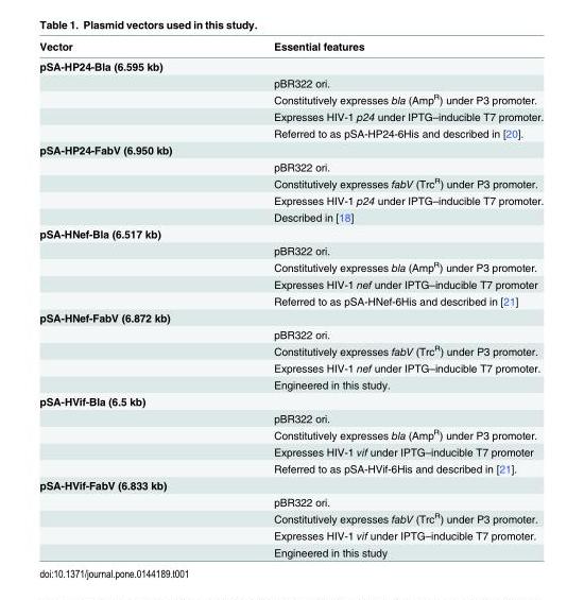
<table><thead><tr><td>Vector</td><td>Essential features</td></tr></thead><tbody><tr><td colspan="2">pSA-HP24-Bla (6.595 kb)</td></tr><tr><td></td><td>pBR322 ori.</td></tr><tr><td></td><td>Constitutively expresses bla (Amp<sup>R</sup>) under P3 promoter.</td></tr><tr><td></td><td>Expresses HIV-1 p24 under IPTG–inducible T7 promoter.</td></tr><tr><td></td><td>Referred to as pSA-HP24-6His and described in [20].</td></tr><tr><td colspan="2">pSA-HP24-FabV (6.950 kb)</td></tr><tr><td></td><td>pBR322 ori.</td></tr><tr><td></td><td>Constitutively expresses fabV (Trc<sup>R</sup>) under P3 promoter.</td></tr><tr><td></td><td>Expresses HIV-1 p24 under IPTG–inducible T7 promoter.</td></tr><tr><td></td><td>Described in [18]</td></tr><tr><td colspan="2">pSA-HNef-Bla (6.517 kb)</td></tr><tr><td></td><td>pBR322 ori.</td></tr><tr><td></td><td>Constitutively expresses bla (Amp<sup>R</sup>) under P3 promoter.</td></tr><tr><td></td><td>Expresses HIV-1 nef under IPTG–inducible T7 promoter</td></tr><tr><td></td><td>Referred to as pSA-HNef-6His and described in [21]</td></tr><tr><td colspan="2">pSA-HNef-FabV (6.872 kb)</td></tr><tr><td></td><td>pBR322 ori.</td></tr><tr><td></td><td>Constitutively expresses fabV (Trc<sup>R</sup>) under P3 promoter.</td></tr><tr><td></td><td>Expresses HIV-1 nef under IPTG–inducible T7 promoter.</td></tr><tr><td></td><td>Engineered in this study.</td></tr><tr><td colspan="2">pSA-HVif-Bla (6.5 kb)</td></tr><tr><td></td><td>pBR322 ori.</td></tr><tr><td></td><td>Constitutively expresses bla (Amp<sup>R</sup>) under P3 promoter.</td></tr><tr><td></td><td>Expresses HIV-1 vif under IPTG–inducible T7 promoter</td></tr><tr><td></td><td>Referred to as pSA-HVif-6His and described in [21].</td></tr><tr><td colspan="2">pSA-HVif-FabV (6.833 kb)</td></tr><tr><td></td><td>pBR322 ori.</td></tr><tr><td></td><td>Constitutively expresses fabV (Trc<sup>R</sup>) under P3 promoter.</td></tr><tr><td></td><td>Expresses HIV-1 vif under IPTG–inducible T7 promoter.</td></tr><tr><td></td><td>Engineered in this study</td></tr></tbody></table>